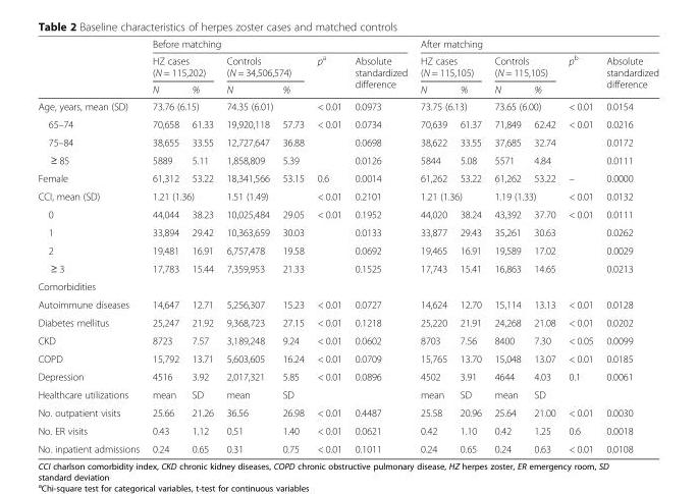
<table><thead><tr><td rowspan="3"></td><td colspan="6">Before matching</td><td colspan="6">After matching</td></tr><tr><td colspan="2">HZ cases (N = 115,202)</td><td colspan="2">Controls (N = 34,506,574)</td><td rowspan="2">p<sup>a</sup></td><td rowspan="2">Absolute standardized difference</td><td colspan="2">HZ cases (N = 115,105)</td><td colspan="2">Controls (N = 115,105)</td><td rowspan="2">p<sup>b</sup></td><td rowspan="2">Absolute standardized difference</td></tr><tr><td>N</td><td>%</td><td>N</td><td>%</td><td>N</td><td>%</td><td>N</td><td>%</td></tr></thead><tbody><tr><td>Age, years, mean (SD)</td><td colspan="2">73.76 (6.15)</td><td colspan="2">74.35 (6.01)</td><td>&lt; 0.01</td><td>0.0973</td><td colspan="2">73.75 (6.13)</td><td colspan="2">73.65 (6.00)</td><td>&lt; 0.01</td><td>0.0154</td></tr><tr><td>65–74</td><td>70,658</td><td>61.33</td><td>19,920,118</td><td>57.73</td><td rowspan="3">&lt; 0.01</td><td>0.0734</td><td>70,639</td><td>61.37</td><td>71,849</td><td>62.42</td><td rowspan="3">&lt; 0.01</td><td>0.0216</td></tr><tr><td>75–84</td><td>38,655</td><td>33.55</td><td>12,727,647</td><td>36.88</td><td>0.0698</td><td>38,622</td><td>33.55</td><td>37,685</td><td>32.74</td><td>0.0172</td></tr><tr><td>≥ 85</td><td>5889</td><td>5.11</td><td>1,858,809</td><td>5.39</td><td>0.0126</td><td>5844</td><td>5.08</td><td>5571</td><td>4.84</td><td>0.0111</td></tr><tr><td>Female</td><td>61,312</td><td>53.22</td><td>18,341,566</td><td>53.15</td><td>0.6</td><td>0.0014</td><td>61,262</td><td>53.22</td><td>61,262</td><td>53.22</td><td>–</td><td>0.0000</td></tr><tr><td>CCI, mean (SD)</td><td colspan="2">1.21 (1.36)</td><td colspan="2">1.51 (1.49)</td><td>&lt; 0.01</td><td>0.2101</td><td colspan="2">1.21 (1.36)</td><td colspan="2">1.19 (1.33)</td><td>&lt; 0.01</td><td>0.0132</td></tr><tr><td>0</td><td>44,044</td><td>38.23</td><td>10,025,484</td><td>29.05</td><td rowspan="4">&lt; 0.01</td><td>0.1952</td><td>44,020</td><td>38.24</td><td>43,392</td><td>37.70</td><td rowspan="4">&lt; 0.01</td><td>0.0111</td></tr><tr><td>1</td><td>33,894</td><td>29.42</td><td>10,363,659</td><td>30.03</td><td>0.0133</td><td>33,877</td><td>29.43</td><td>35,261</td><td>30.63</td><td>0.0262</td></tr><tr><td>2</td><td>19,481</td><td>16.91</td><td>6,757,478</td><td>19.58</td><td>0.0692</td><td>19,465</td><td>16.91</td><td>19,589</td><td>17.02</td><td>0.0029</td></tr><tr><td>≥ 3</td><td>17,783</td><td>15.44</td><td>7,359,953</td><td>21.33</td><td>0.1525</td><td>17,743</td><td>15.41</td><td>16,863</td><td>14.65</td><td>0.0213</td></tr><tr><td colspan="13">Comorbidities</td></tr><tr><td>Autoimmune diseases</td><td>14,647</td><td>12.71</td><td>5,256,307</td><td>15.23</td><td>&lt; 0.01</td><td>0.0727</td><td>14,624</td><td>12.70</td><td>15,114</td><td>13.13</td><td>&lt; 0.01</td><td>0.0128</td></tr><tr><td>Diabetes mellitus</td><td>25,247</td><td>21.92</td><td>9,368,723</td><td>27.15</td><td>&lt; 0.01</td><td>0.1218</td><td>25,220</td><td>21.91</td><td>24,268</td><td>21.08</td><td>&lt; 0.01</td><td>0.0202</td></tr><tr><td>CKD</td><td>8723</td><td>7.57</td><td>3,189,248</td><td>9.24</td><td>&lt; 0.01</td><td>0.0602</td><td>8703</td><td>7.56</td><td>8400</td><td>7.30</td><td>&lt; 0.05</td><td>0.0099</td></tr><tr><td>COPD</td><td>15,792</td><td>13.71</td><td>5,603,605</td><td>16.24</td><td>&lt; 0.01</td><td>0.0709</td><td>15,765</td><td>13.70</td><td>15,048</td><td>13.07</td><td>&lt; 0.01</td><td>0.0185</td></tr><tr><td>Depression</td><td>4516</td><td>3.92</td><td>2,017,321</td><td>5.85</td><td>&lt; 0.01</td><td>0.0896</td><td>4502</td><td>3.91</td><td>4644</td><td>4.03</td><td>0.1</td><td>0.0061</td></tr><tr><td>Healthcare utilizations</td><td>mean</td><td>SD</td><td>mean</td><td>SD</td><td></td><td></td><td>mean</td><td>SD</td><td>mean</td><td>SD</td><td></td><td></td></tr><tr><td>No. outpatient visits</td><td>25.66</td><td>21.26</td><td>36.56</td><td>26.98</td><td>&lt; 0.01</td><td>0.4487</td><td>25.58</td><td>20.96</td><td>25.64</td><td>21.00</td><td>&lt; 0.01</td><td>0.0030</td></tr><tr><td>No. ER visits</td><td>0.43</td><td>1.12</td><td>0.51</td><td>1.40</td><td>&lt; 0.01</td><td>0.0621</td><td>0.42</td><td>1.10</td><td>0.42</td><td>1.25</td><td>0.6</td><td>0.0018</td></tr><tr><td>No. inpatient admissions</td><td>0.24</td><td>0.65</td><td>0.31</td><td>0.75</td><td>&lt; 0.01</td><td>0.1011</td><td>0.24</td><td>0.65</td><td>0.24</td><td>0.63</td><td>&lt; 0.01</td><td>0.0108</td></tr></tbody></table>